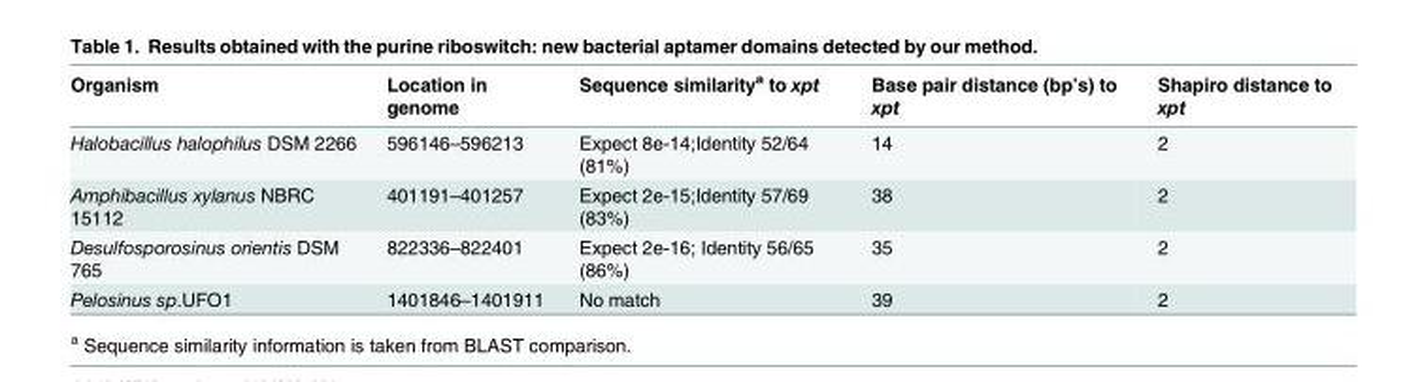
<table><thead><tr><td>Organism</td><td>Location in genome</td><td>Sequence similarity<sup>a</sup> to xpt</td><td>Base pair distance (bp’s) to xpt</td><td>Shapiro distance to xpt</td></tr></thead><tbody><tr><td>Halobacillus halophilus DSM 2266</td><td>596146–596213</td><td>Expect 8e-14;Identity 52/64 (81%)</td><td>14</td><td>2</td></tr><tr><td>Amphibacillus xylanus NBRC 15112</td><td>401191–401257</td><td>Expect 2e-15;Identity 57/69 (83%)</td><td>38</td><td>2</td></tr><tr><td>Desulfosporosinus orientis DSM 765</td><td>822336–822401</td><td>Expect 2e-16; Identity 56/65 (86%)</td><td>35</td><td>2</td></tr><tr><td>Pelosinus sp.UFO1</td><td>1401846–1401911</td><td>No match</td><td>39</td><td>2</td></tr></tbody></table>